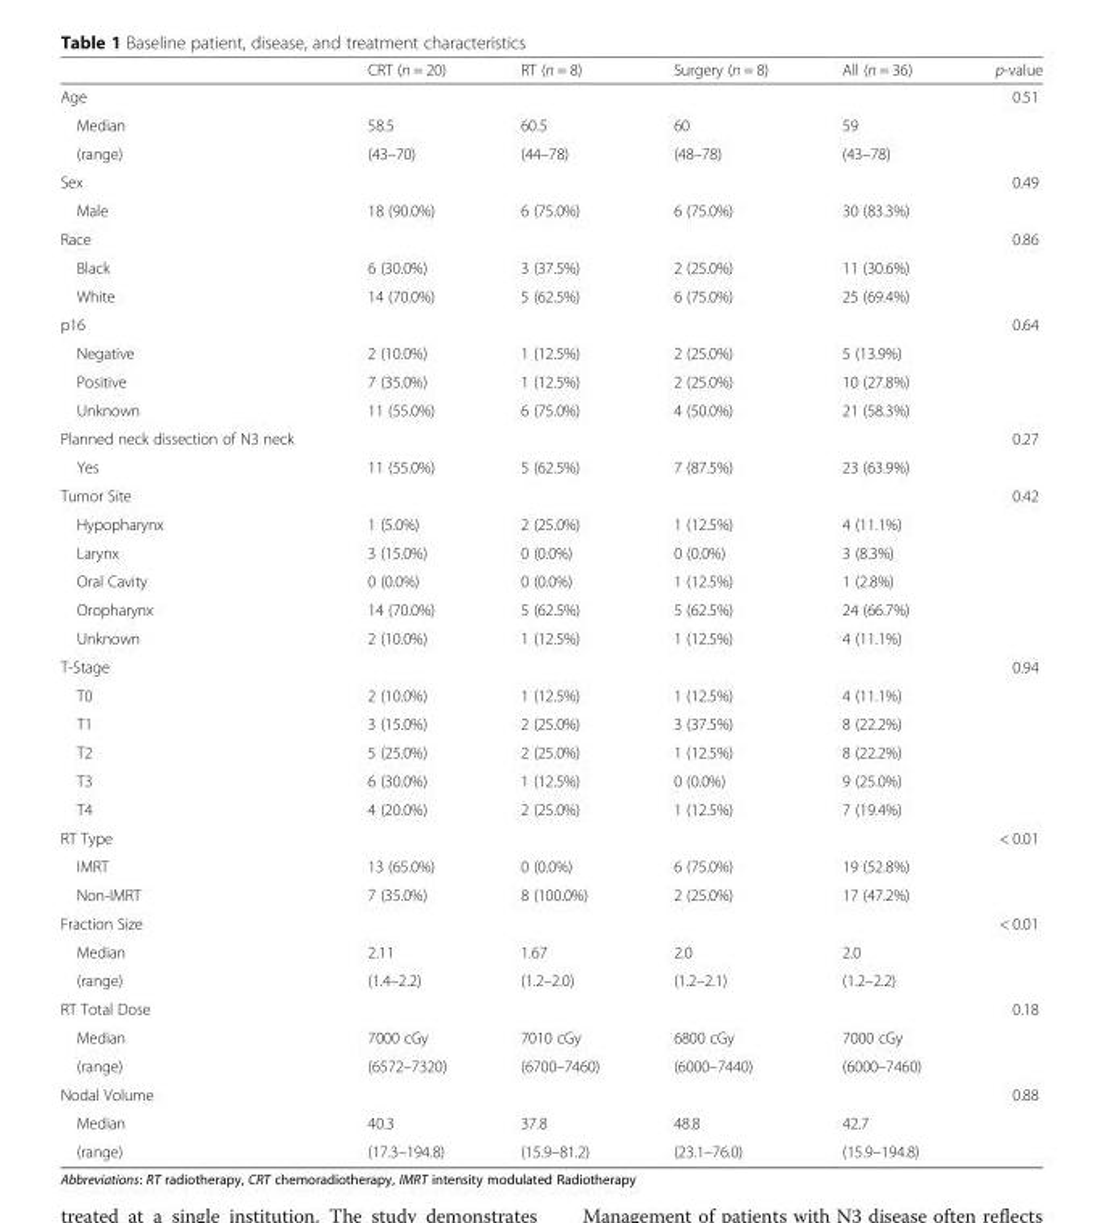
<table><thead><tr><td></td><td>CRT (n = 20)</td><td>RT (n = 8)</td><td>Surgery (n = 8)</td><td>All (n = 36)</td><td>p-value</td></tr></thead><tbody><tr><td>Age</td><td></td><td></td><td></td><td></td><td>0.51</td></tr><tr><td>Median</td><td>58.5</td><td>60.5</td><td>60</td><td>59</td><td></td></tr><tr><td>(range)</td><td>(43–70)</td><td>(44–78)</td><td>(48–78)</td><td>(43–78)</td><td></td></tr><tr><td>Sex</td><td></td><td></td><td></td><td></td><td>0.49</td></tr><tr><td>Male</td><td>18 (90.0%)</td><td>6 (75.0%)</td><td>6 (75.0%)</td><td>30 (83.3%)</td><td></td></tr><tr><td>Race</td><td></td><td></td><td></td><td></td><td>0.86</td></tr><tr><td>Black</td><td>6 (30.0%)</td><td>3 (37.5%)</td><td>2 (25.0%)</td><td>11 (30.6%)</td><td></td></tr><tr><td>White</td><td>14 (70.0%)</td><td>5 (62.5%)</td><td>6 (75.0%)</td><td>25 (69.4%)</td><td></td></tr><tr><td>p16</td><td></td><td></td><td></td><td></td><td>0.64</td></tr><tr><td>Negative</td><td>2 (10.0%)</td><td>1 (12.5%)</td><td>2 (25.0%)</td><td>5 (13.9%)</td><td></td></tr><tr><td>Positive</td><td>7 (35.0%)</td><td>1 (12.5%)</td><td>2 (25.0%)</td><td>10 (27.8%)</td><td></td></tr><tr><td>Unknown</td><td>11 (55.0%)</td><td>6 (75.0%)</td><td>4 (50.0%)</td><td>21 (58.3%)</td><td></td></tr><tr><td>Planned neck dissection of N3 neck</td><td></td><td></td><td></td><td></td><td>0.27</td></tr><tr><td>Yes</td><td>11 (55.0%)</td><td>5 (62.5%)</td><td>7 (87.5%)</td><td>23 (63.9%)</td><td></td></tr><tr><td>Tumor Site</td><td></td><td></td><td></td><td></td><td>0.42</td></tr><tr><td>Hypopharynx</td><td>1 (5.0%)</td><td>2 (25.0%)</td><td>1 (12.5%)</td><td>4 (11.1%)</td><td></td></tr><tr><td>Larynx</td><td>3 (15.0%)</td><td>0 (0.0%)</td><td>0 (0.0%)</td><td>3 (8.3%)</td><td></td></tr><tr><td>Oral Cavity</td><td>0 (0.0%)</td><td>0 (0.0%)</td><td>1 (12.5%)</td><td>1 (2.8%)</td><td></td></tr><tr><td>Oropharynx</td><td>14 (70.0%)</td><td>5 (62.5%)</td><td>5 (62.5%)</td><td>24 (66.7%)</td><td></td></tr><tr><td>Unknown</td><td>2 (10.0%)</td><td>1 (12.5%)</td><td>1 (12.5%)</td><td>4 (11.1%)</td><td></td></tr><tr><td>T-Stage</td><td></td><td></td><td></td><td></td><td>0.94</td></tr><tr><td>T0</td><td>2 (10.0%)</td><td>1 (12.5%)</td><td>1 (12.5%)</td><td>4 (11.1%)</td><td></td></tr><tr><td>T1</td><td>3 (15.0%)</td><td>2 (25.0%)</td><td>3 (37.5%)</td><td>8 (22.2%)</td><td></td></tr><tr><td>T2</td><td>5 (25.0%)</td><td>2 (25.0%)</td><td>1 (12.5%)</td><td>8 (22.2%)</td><td></td></tr><tr><td>T3</td><td>6 (30.0%)</td><td>1 (12.5%)</td><td>0 (0.0%)</td><td>9 (25.0%)</td><td></td></tr><tr><td>T4</td><td>4 (20.0%)</td><td>2 (25.0%)</td><td>1 (12.5%)</td><td>7 (19.4%)</td><td></td></tr><tr><td>RT Type</td><td></td><td></td><td></td><td></td><td>&lt; 0.01</td></tr><tr><td>IMRT</td><td>13 (65.0%)</td><td>0 (0.0%)</td><td>6 (75.0%)</td><td>19 (52.8%)</td><td></td></tr><tr><td>Non-IMRT</td><td>7 (35.0%)</td><td>8 (100.0%)</td><td>2 (25.0%)</td><td>17 (47.2%)</td><td></td></tr><tr><td>Fraction Size</td><td></td><td></td><td></td><td></td><td>&lt; 0.01</td></tr><tr><td>Median</td><td>2.11</td><td>1.67</td><td>2.0</td><td>2.0</td><td></td></tr><tr><td>(range)</td><td>(1.4–2.2)</td><td>(1.2–2.0)</td><td>(1.2–2.1)</td><td>(1.2–2.2)</td><td></td></tr><tr><td>RT Total Dose</td><td></td><td></td><td></td><td></td><td>0.18</td></tr><tr><td>Median</td><td>7000 cGy</td><td>7010 cGy</td><td>6800 cGy</td><td>7000 cGy</td><td></td></tr><tr><td>(range)</td><td>(6572–7320)</td><td>(6700–7460)</td><td>(6000–7440)</td><td>(6000–7460)</td><td></td></tr><tr><td>Nodal Volume</td><td></td><td></td><td></td><td></td><td>0.88</td></tr><tr><td>Median</td><td>40.3</td><td>37.8</td><td>48.8</td><td>42.7</td><td></td></tr><tr><td>(range)</td><td>(17.3–194.8)</td><td>(15.9–81.2)</td><td>(23.1–76.0)</td><td>(15.9–194.8)</td><td></td></tr></tbody></table>